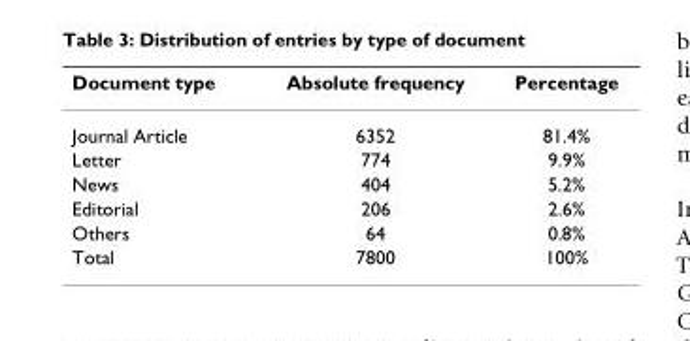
<table><thead><tr><td>Document type</td><td>Absolute frequency</td><td>Percentage</td></tr></thead><tbody><tr><td>Journal Article</td><td>6352</td><td>81.4%</td></tr><tr><td>Letter</td><td>774</td><td>9.9%</td></tr><tr><td>News</td><td>404</td><td>5.2%</td></tr><tr><td>Editorial</td><td>206</td><td>2.6%</td></tr><tr><td>Others</td><td>64</td><td>0.8%</td></tr><tr><td>Total</td><td>7800</td><td>100%</td></tr></tbody></table>